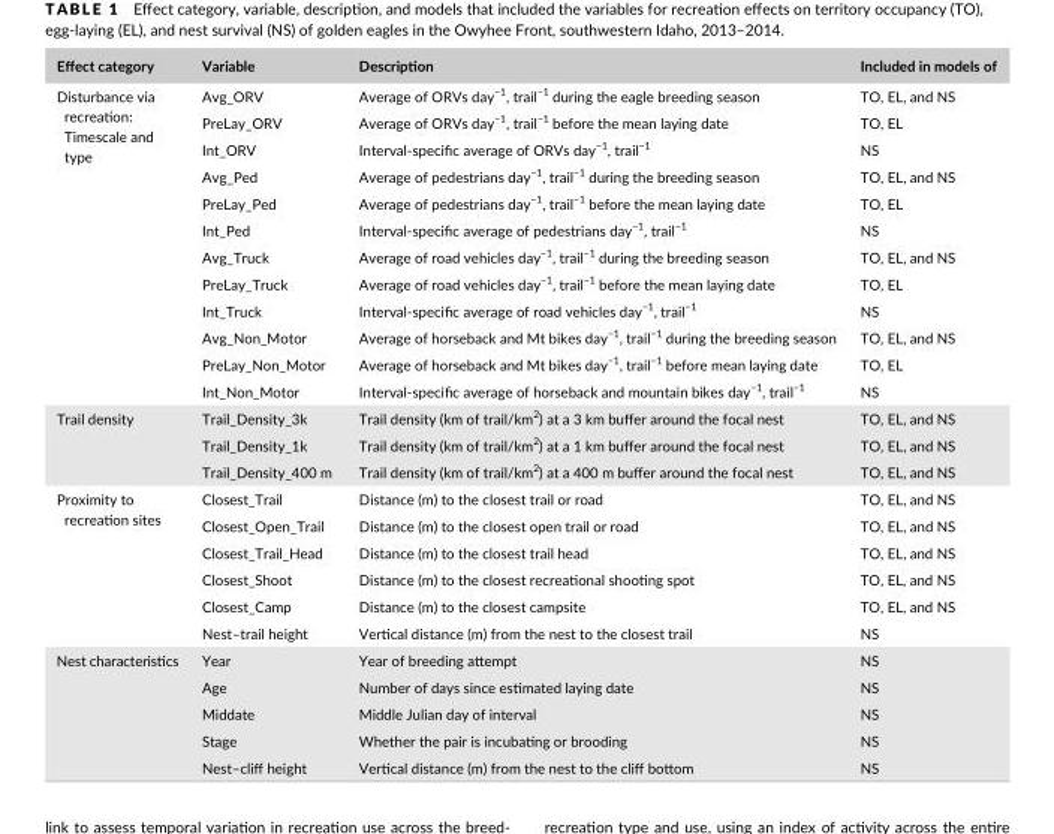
<table><thead><tr><td>Effect category</td><td>Variable</td><td>Description</td><td>Included in models of</td></tr></thead><tbody><tr><td rowspan="12">Disturbance via recreation: Timescale and type</td><td>Avg_ORV</td><td>Average of ORVs day<sup>−1</sup>, trail<sup>−1</sup> during the eagle breeding season</td><td>TO, EL, and NS</td></tr><tr><td>PreLay_ORV</td><td>Average of ORVs day<sup>−1</sup>, trail<sup>−1</sup> before the mean laying date</td><td>TO, EL</td></tr><tr><td>Int_ORV</td><td>Interval- specific average of ORVs day<sup>−1</sup>, trail<sup>−1</sup></td><td>NS</td></tr><tr><td>Avg_Ped</td><td>Average of pedestrians day<sup>−1</sup>, trail<sup>−1</sup> during the breeding season</td><td>TO, EL, and NS</td></tr><tr><td>PreLay_Ped</td><td>Average of pedestrians day<sup>−1</sup>, trail<sup>−1</sup> before the mean laying date</td><td>TO, EL</td></tr><tr><td>Int_Ped</td><td>Interval- specific average of pedestrians day<sup>−1</sup>, trail<sup>−1</sup></td><td>NS</td></tr><tr><td>Avg_Truck</td><td>Average of road vehicles day<sup>−1</sup>, trail<sup>−1</sup> during the breeding season</td><td>TO, EL, and NS</td></tr><tr><td>PreLay_Truck</td><td>Average of road vehicles day<sup>−1</sup>, trail<sup>−1</sup> before the mean laying date</td><td>TO, EL</td></tr><tr><td>Int_Truck</td><td>Interval- specific average of road vehicles day<sup>−1</sup>, trail<sup>−1</sup></td><td>NS</td></tr><tr><td>Avg_Non_Motor</td><td>Average of horseback and Mt bikes day<sup>−1</sup>, trail<sup>−1</sup> during the breeding season</td><td>TO, EL, and NS</td></tr><tr><td>PreLay_Non_Motor</td><td>Average of horseback and Mt bikes day<sup>−1</sup>, trail<sup>−1</sup> before mean laying date</td><td>TO, EL</td></tr><tr><td>Int_Non_Motor</td><td>Interval- specific average of horseback and mountain bikes day<sup>−1</sup>, trail<sup>−1</sup></td><td>NS</td></tr><tr><td rowspan="3">Trail density</td><td>Trail_Density_3k</td><td>Trail density (km of trail/km<sup>2</sup>) at a 3 km buffer around the focal nest</td><td>TO, EL, and NS</td></tr><tr><td>Trail_Density_1k</td><td>Trail density (km of trail/km<sup>2</sup>) at a 1 km buffer around the focal nest</td><td>TO, EL, and NS</td></tr><tr><td>Trail_Density_400 m</td><td>Trail density (km of trail/km<sup>2</sup>) at a 400 m buffer around the focal nest</td><td>TO, EL, and NS</td></tr><tr><td rowspan="6">Proximity to recreation sites</td><td>Closest_Trail</td><td>Distance (m) to the closest trail or road</td><td>TO, EL, and NS</td></tr><tr><td>Closest_Open_Trail</td><td>Distance (m) to the closest open trail or road</td><td>TO, EL, and NS</td></tr><tr><td>Closest_Trail_Head</td><td>Distance (m) to the closest trail head</td><td>TO, EL, and NS</td></tr><tr><td>Closest_Shoot</td><td>Distance (m) to the closest recreational shooting spot</td><td>TO, EL, and NS</td></tr><tr><td>Closest_Camp</td><td>Distance (m) to the closest campsite</td><td>TO, EL, and NS</td></tr><tr><td>Nest–trail height</td><td>Vertical distance (m) from the nest to the closest trail</td><td>NS</td></tr><tr><td rowspan="5">Nest characteristics</td><td>Year</td><td>Year of breeding attempt</td><td>NS</td></tr><tr><td>Age</td><td>Number of days since estimated laying date</td><td>NS</td></tr><tr><td>Middate</td><td>Middle Julian day of interval</td><td>NS</td></tr><tr><td>Stage</td><td>Whether the pair is incubating or brooding</td><td>NS</td></tr><tr><td>Nest–cliff height</td><td>Vertical distance (m) from the nest to the cliff bottom</td><td>NS</td></tr></tbody></table>